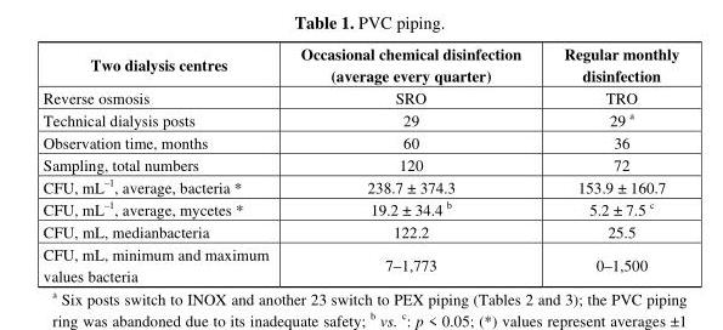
<table><thead><tr><td>Two dialysis centres</td><td>Occasional chemical disinfection (average every quarter)</td><td>Regular monthly disinfection</td></tr></thead><tbody><tr><td>Reverse osmosis</td><td>SRO</td><td>TRO</td></tr><tr><td>Technical dialysis posts</td><td>29</td><td>29 <sup>a</sup></td></tr><tr><td>Observation time, months</td><td>60</td><td>36</td></tr><tr><td>Sampling, total numbers</td><td>120</td><td>72</td></tr><tr><td>CFU, mL<sup>–1</sup>, average, bacteria *</td><td>238.7 ± 374.3</td><td>153.9 ± 160.7</td></tr><tr><td>CFU, mL<sup>–1</sup>, average, mycetes *</td><td>19.2 ± 34.4 <sup>b</sup></td><td>5.2 ± 7.5 <sup>c</sup></td></tr><tr><td>CFU, mL, medianbacteria</td><td>122.2</td><td>25.5</td></tr><tr><td>CFU, mL, minimum and maximum values bacteria</td><td>7–1,773</td><td>0–1,500</td></tr></tbody></table>